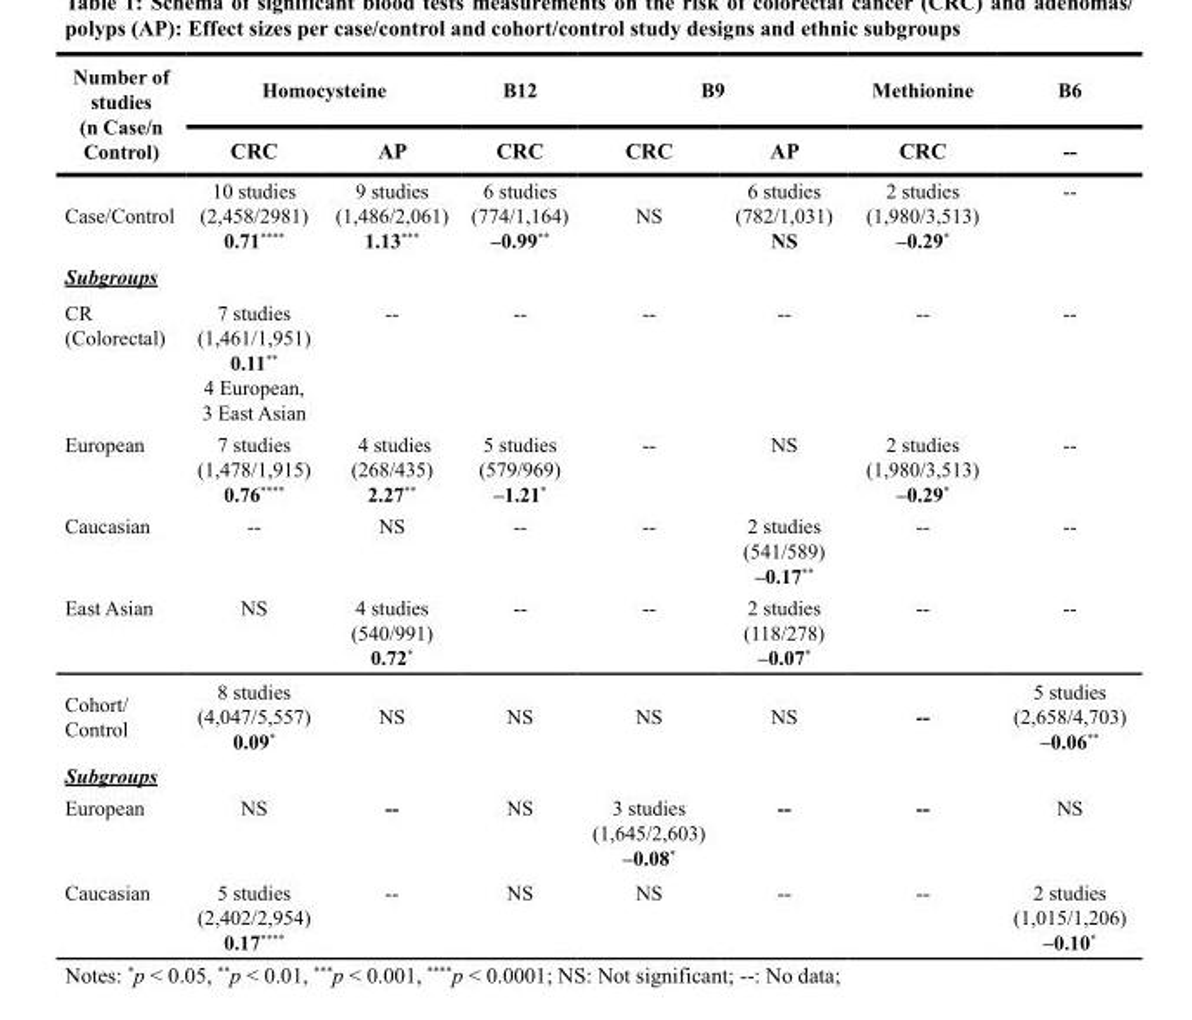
<table><thead><tr><td rowspan="2">Number of studies (n Case/n Control)</td><td colspan="2">Homocysteine</td><td rowspan="2">B12 CRC</td><td colspan="2">B9</td><td rowspan="2">Methionine CRC</td><td rowspan="2">B6 --</td></tr><tr><td>CRC</td><td>AP</td><td>CRC</td><td>AP</td></tr></thead><tbody><tr><td>Case/Control</td><td>10 studies (2,458/2981) 0.71****</td><td>9 studies (1,486/2,061) 1.13***</td><td>6 studies (774/1,164) –0.99**</td><td>NS</td><td>6 studies (782/1,031) NS</td><td>2 studies (1,980/3,513) –0.29*</td><td>--</td></tr><tr><td colspan="8">Subgroups</td></tr><tr><td>CR (Colorectal)</td><td>7 studies (1,461/1,951) 0.11** 4 European, 3 East Asian</td><td>--</td><td>--</td><td>--</td><td>--</td><td>--</td><td>--</td></tr><tr><td>European</td><td>7 studies (1,478/1,915) 0.76****</td><td>4 studies (268/435) 2.27**</td><td>5 studies (579/969) –1.21*</td><td>--</td><td>NS</td><td>2 studies (1,980/3,513) –0.29*</td><td>--</td></tr><tr><td>Caucasian</td><td>--</td><td>NS</td><td>--</td><td>--</td><td>2 studies (541/589) –0.17**</td><td>--</td><td>--</td></tr><tr><td>East Asian</td><td>NS</td><td>4 studies (540/991) 0.72*</td><td>--</td><td>--</td><td>2 studies (118/278) –0.07*</td><td>--</td><td>--</td></tr><tr><td>Cohort/ Control</td><td>8 studies (4,047/5,557) 0.09*</td><td>NS</td><td>NS</td><td>NS</td><td>NS</td><td>--</td><td>5 studies (2,658/4,703) –0.06**</td></tr><tr><td colspan="8">Subgroups</td></tr><tr><td>European</td><td>NS</td><td>--</td><td>NS</td><td>3 studies (1,645/2,603) –0.08*</td><td>--</td><td>--</td><td>NS</td></tr><tr><td>Caucasian</td><td>5 studies (2,402/2,954) 0.17****</td><td>--</td><td>NS</td><td>NS</td><td>--</td><td>--</td><td>2 studies (1,015/1,206) –0.10*</td></tr></tbody></table>